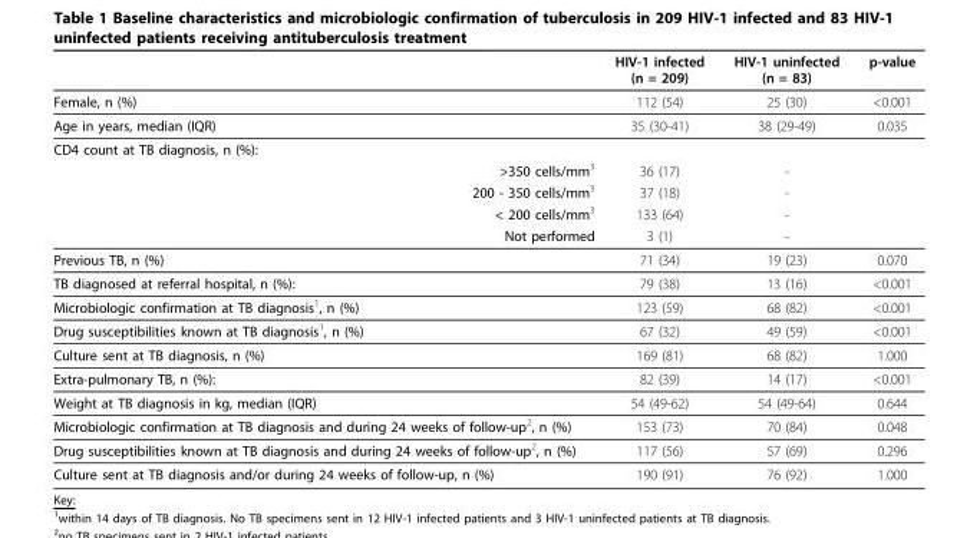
<table><thead><tr><td></td><td>HIV-1 infected (n = 209)</td><td>HIV-1 uninfected (n = 83)</td><td>p-value</td></tr></thead><tbody><tr><td>Female, n (%)</td><td>112 (54)</td><td>25 (30)</td><td>&lt;0.001</td></tr><tr><td>Age in years, median (IQR)</td><td>35 (30-41)</td><td>38 (29-49)</td><td>0.035</td></tr><tr><td colspan="4">CD4 count at TB diagnosis, n (%):</td></tr><tr><td>&gt;350 cells/mm<sup>3</sup></td><td>36 (17)</td><td>-</td><td></td></tr><tr><td>200 - 350 cells/mm<sup>3</sup></td><td>37 (18)</td><td>-</td><td></td></tr><tr><td>&lt; 200 cells/mm<sup>3</sup></td><td>133 (64)</td><td>-</td><td></td></tr><tr><td>Not performed</td><td>3 (1)</td><td>-</td><td></td></tr><tr><td>Previous TB, n (%)</td><td>71 (34)</td><td>19 (23)</td><td>0.070</td></tr><tr><td>TB diagnosed at referral hospital, n (%):</td><td>79 (38)</td><td>13 (16)</td><td>&lt;0.001</td></tr><tr><td>Microbiologic confirmation at TB diagnosis<sup>1</sup>, n (%)</td><td>123 (59)</td><td>68 (82)</td><td>&lt;0.001</td></tr><tr><td>Drug susceptibilities known at TB diagnosis<sup>1</sup>, n (%)</td><td>67 (32)</td><td>49 (59)</td><td>&lt;0.001</td></tr><tr><td>Culture sent at TB diagnosis, n (%)</td><td>169 (81)</td><td>68 (82)</td><td>1.000</td></tr><tr><td>Extra-pulmonary TB, n (%):</td><td>82 (39)</td><td>14 (17)</td><td>&lt;0.001</td></tr><tr><td>Weight at TB diagnosis in kg, median (IQR)</td><td>54 (49-62)</td><td>54 (49-64)</td><td>0.644</td></tr><tr><td>Microbiologic confirmation at TB diagnosis and during 24 weeks of follow-up<sup>2</sup>, n (%)</td><td>153 (73)</td><td>70 (84)</td><td>0.048</td></tr><tr><td>Drug susceptibilities known at TB diagnosis and during 24 weeks of follow-up<sup>2</sup>, n (%)</td><td>117 (56)</td><td>57 (69)</td><td>0.296</td></tr><tr><td>Culture sent at TB diagnosis and/or during 24 weeks of follow-up, n (%)</td><td>190 (91)</td><td>76 (92)</td><td>1.000</td></tr></tbody></table>